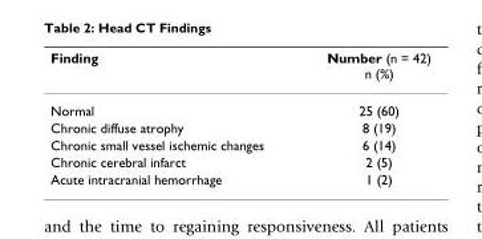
<table><thead><tr><td>Finding</td><td>Number (n = 42) n (%)</td></tr></thead><tbody><tr><td>Normal</td><td>25 (60)</td></tr><tr><td>Chronic diffuse atrophy</td><td>8 (19)</td></tr><tr><td>Chronic small vessel ischemic changes</td><td>6 (14)</td></tr><tr><td>Chronic cerebral infarct</td><td>2 (5)</td></tr><tr><td>Acute intracranial hemorrhage</td><td>1 (2)</td></tr></tbody></table>